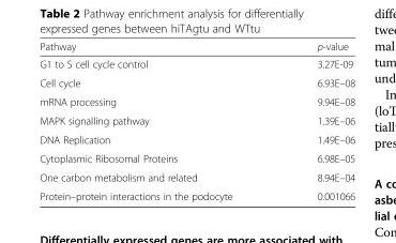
<table><thead><tr><td>Pathway</td><td>p-value</td></tr></thead><tbody><tr><td>G1 to S cell cycle control</td><td>3.27E-09</td></tr><tr><td>Cell cycle</td><td>6.93E–08</td></tr><tr><td>mRNA processing</td><td>9.94E–08</td></tr><tr><td>MAPK signalling pathway</td><td>1.39E–06</td></tr><tr><td>DNA Replication</td><td>1.49E–06</td></tr><tr><td>Cytoplasmic Ribosomal Proteins</td><td>6.98E–05</td></tr><tr><td>One carbon metabolism and related</td><td>8.94E–04</td></tr><tr><td>Protein–protein interactions in the podocyte</td><td>0.001066</td></tr></tbody></table>